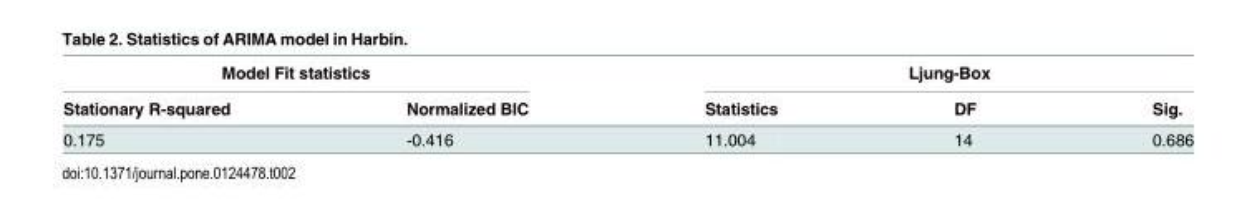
<table><thead><tr><td colspan="2">Model Fit statistics</td><td colspan="3">Ljung-Box</td></tr><tr><td>Stationary R-squared</td><td>Normalized BIC</td><td>Statistics</td><td>DF</td><td>Sig.</td></tr></thead><tbody><tr><td>0.175</td><td>-0.416</td><td>11.004</td><td>14</td><td>0.686</td></tr></tbody></table>